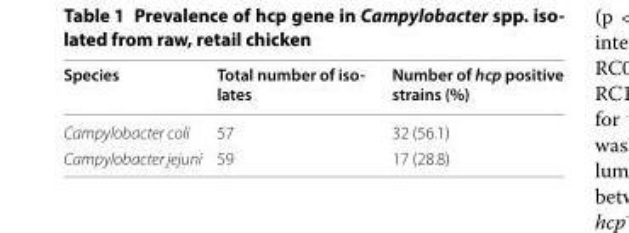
<table><thead><tr><td>Species</td><td>Total number of iso- lates</td><td>Number of hcp positive strains (%)</td></tr></thead><tbody><tr><td>Campylobacter coli</td><td>57</td><td>32 (56.1)</td></tr><tr><td>Campylobacter jejuni</td><td>59</td><td>17 (28.8)</td></tr></tbody></table>